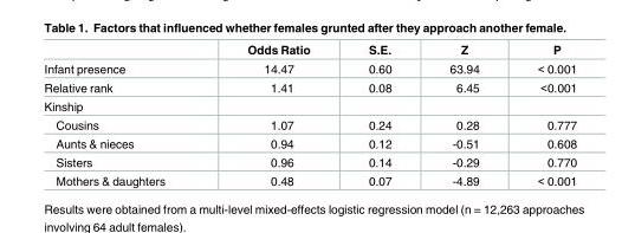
<table><thead><tr><td></td><td>Odds Ratio</td><td>S.E.</td><td>Z</td><td>P</td></tr></thead><tbody><tr><td>Infant presence</td><td>14.47</td><td>0.60</td><td>63.94</td><td>&lt; 0.001</td></tr><tr><td>Relative rank</td><td>1.41</td><td>0.08</td><td>6.45</td><td>&lt;0.001</td></tr><tr><td colspan="5">Kinship</td></tr><tr><td>Cousins</td><td>1.07</td><td>0.24</td><td>0.28</td><td>0.777</td></tr><tr><td>Aunts &amp; nieces</td><td>0.94</td><td>0.12</td><td>-0.51</td><td>0.608</td></tr><tr><td>Sisters</td><td>0.96</td><td>0.14</td><td>-0.29</td><td>0.770</td></tr><tr><td>Mothers &amp; daughters</td><td>0.48</td><td>0.07</td><td>-4.89</td><td>&lt; 0.001</td></tr></tbody></table>